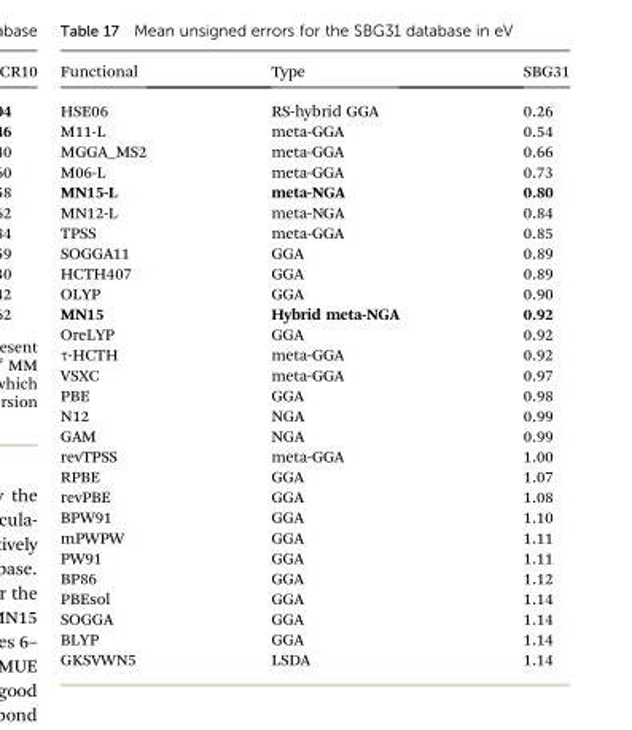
<table><thead><tr><td>Functional</td><td>Type</td><td>SBG31</td></tr></thead><tbody><tr><td>HSE06</td><td>RS-hybrid GGA</td><td>0.26</td></tr><tr><td>M11-L</td><td>meta-GGA</td><td>0.54</td></tr><tr><td>MGGA_MS2</td><td>meta-GGA</td><td>0.66</td></tr><tr><td>M06-L</td><td>meta-GGA</td><td>0.73</td></tr><tr><td>MN15-L</td><td>meta-NGA</td><td>0.80</td></tr><tr><td>MN12-L</td><td>meta-NGA</td><td>0.84</td></tr><tr><td>TPSS</td><td>meta-GGA</td><td>0.85</td></tr><tr><td>SOGGA11</td><td>GGA</td><td>0.89</td></tr><tr><td>HCTH407</td><td>GGA</td><td>0.89</td></tr><tr><td>OLYP</td><td>GGA</td><td>0.90</td></tr><tr><td>MN15</td><td>Hybrid meta-NGA</td><td>0.92</td></tr><tr><td>OreLYP</td><td>GGA</td><td>0.92</td></tr><tr><td>τ-HCTH</td><td>meta-GGA</td><td>0.92</td></tr><tr><td>VSXC</td><td>meta-GGA</td><td>0.97</td></tr><tr><td>PBE</td><td>GGA</td><td>0.98</td></tr><tr><td>N12</td><td>NGA</td><td>0.99</td></tr><tr><td>GAM</td><td>NGA</td><td>0.99</td></tr><tr><td>revTPSS</td><td>meta-GGA</td><td>1.00</td></tr><tr><td>RPBE</td><td>GGA</td><td>1.07</td></tr><tr><td>revPBE</td><td>GGA</td><td>1.08</td></tr><tr><td>BPW91</td><td>GGA</td><td>1.10</td></tr><tr><td>mPWPW</td><td>GGA</td><td>1.11</td></tr><tr><td>PW91</td><td>GGA</td><td>1.11</td></tr><tr><td>BP86</td><td>GGA</td><td>1.12</td></tr><tr><td>PBEsol</td><td>GGA</td><td>1.14</td></tr><tr><td>SOGGA</td><td>GGA</td><td>1.14</td></tr><tr><td>BLYP</td><td>GGA</td><td>1.14</td></tr><tr><td>GKSVWN5</td><td>LSDA</td><td>1.14</td></tr></tbody></table>